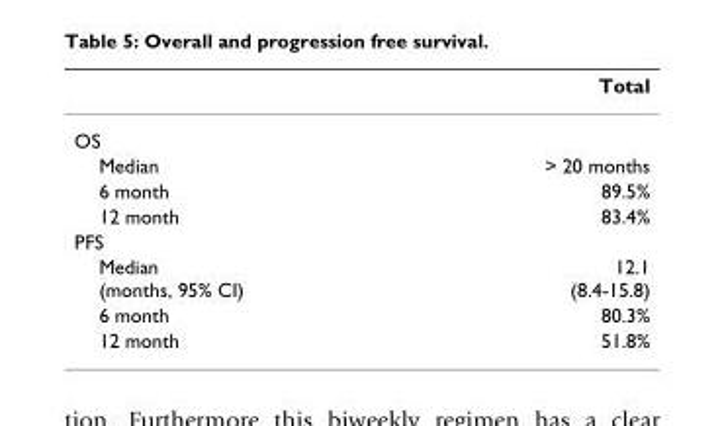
<table><thead><tr><td></td><td>Total</td></tr></thead><tbody><tr><td colspan="2">OS</td></tr><tr><td>Median</td><td>&gt; 20 months</td></tr><tr><td>6 month</td><td>89.5%</td></tr><tr><td>12 month</td><td>83.4%</td></tr><tr><td colspan="2">PFS</td></tr><tr><td>Median (months, 95% CI)</td><td>12.1 (8.4-15.8)</td></tr><tr><td>6 month</td><td>80.3%</td></tr><tr><td>12 month</td><td>51.8%</td></tr></tbody></table>